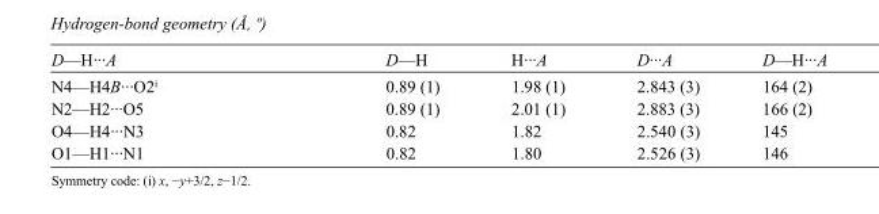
<table><tbody><tr><td>D—H···A</td><td>D—H</td><td>H···A</td><td>D···A</td><td>D—H···A</td></tr><tr><td>N4—H4B···O2<sup>i</sup></td><td>0.89 (1)</td><td>1.98 (1)</td><td>2.843 (3)</td><td>164 (2)</td></tr><tr><td>N2—H2···O5</td><td>0.89 (1)</td><td>2.01 (1)</td><td>2.883 (3)</td><td>166 (2)</td></tr><tr><td>O4—H4···N3</td><td>0.82</td><td>1.82</td><td>2.540 (3)</td><td>145</td></tr><tr><td>O1—H1···N1</td><td>0.82</td><td>1.80</td><td>2.526 (3)</td><td>146</td></tr></tbody></table>